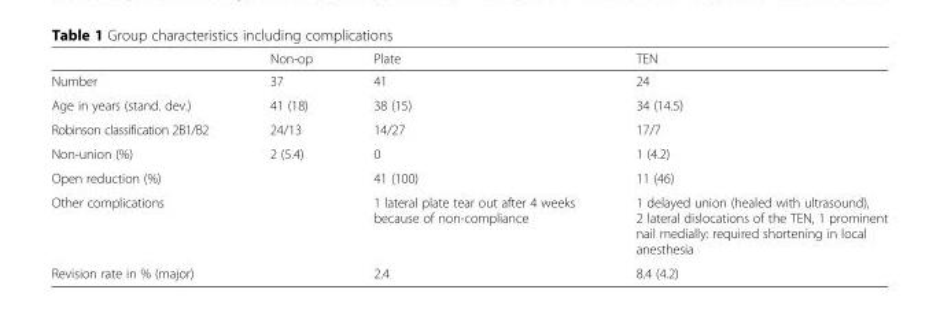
<table><thead><tr><td></td><td>Non-op</td><td>Plate</td><td>TEN</td></tr></thead><tbody><tr><td>Number</td><td>37</td><td>41</td><td>24</td></tr><tr><td>Age in years (stand. dev.)</td><td>41 (18)</td><td>38 (15)</td><td>34 (14.5)</td></tr><tr><td>Robinson classification 2B1/B2</td><td>24/13</td><td>14/27</td><td>17/7</td></tr><tr><td>Non-union (%)</td><td>2 (5.4)</td><td>0</td><td>1 (4.2)</td></tr><tr><td>Open reduction (%)</td><td></td><td>41 (100)</td><td>11 (46)</td></tr><tr><td>Other complications</td><td></td><td>1 lateral plate tear out after 4 weeks because of non-compliance</td><td>1 delayed union (healed with ultrasound), 2 lateral dislocations of the TEN, 1 prominent nail medially: required shortening in local anesthesia</td></tr><tr><td>Revision rate in % (major)</td><td></td><td>2.4</td><td>8.4 (4.2)</td></tr></tbody></table>